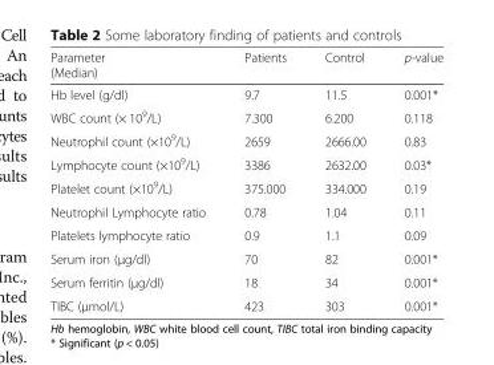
<table><thead><tr><td>Parameter (Median)</td><td>Patients</td><td>Control</td><td>p-value</td></tr></thead><tbody><tr><td>Hb level (g/dl)</td><td>9.7</td><td>11.5</td><td>0.001*</td></tr><tr><td>WBC count (× 10<sup>9</sup>/L)</td><td>7.300</td><td>6.200</td><td>0.118</td></tr><tr><td>Neutrophil count (×10<sup>9</sup>/L)</td><td>2659</td><td>2666.00</td><td>0.83</td></tr><tr><td>Lymphocyte count (×10<sup>9</sup>/L)</td><td>3386</td><td>2632.00</td><td>0.03*</td></tr><tr><td>Platelet count (×10<sup>9</sup>/L)</td><td>375.000</td><td>334.000</td><td>0.19</td></tr><tr><td>Neutrophil Lymphocyte ratio</td><td>0.78</td><td>1.04</td><td>0.11</td></tr><tr><td>Platelets lymphocyte ratio</td><td>0.9</td><td>1.1</td><td>0.09</td></tr><tr><td>Serum iron (μg/dl)</td><td>70</td><td>82</td><td>0.001*</td></tr><tr><td>Serum ferritin (μg/dl)</td><td>18</td><td>34</td><td>0.001*</td></tr><tr><td>TIBC (μmol/L)</td><td>423</td><td>303</td><td>0.001*</td></tr></tbody></table>